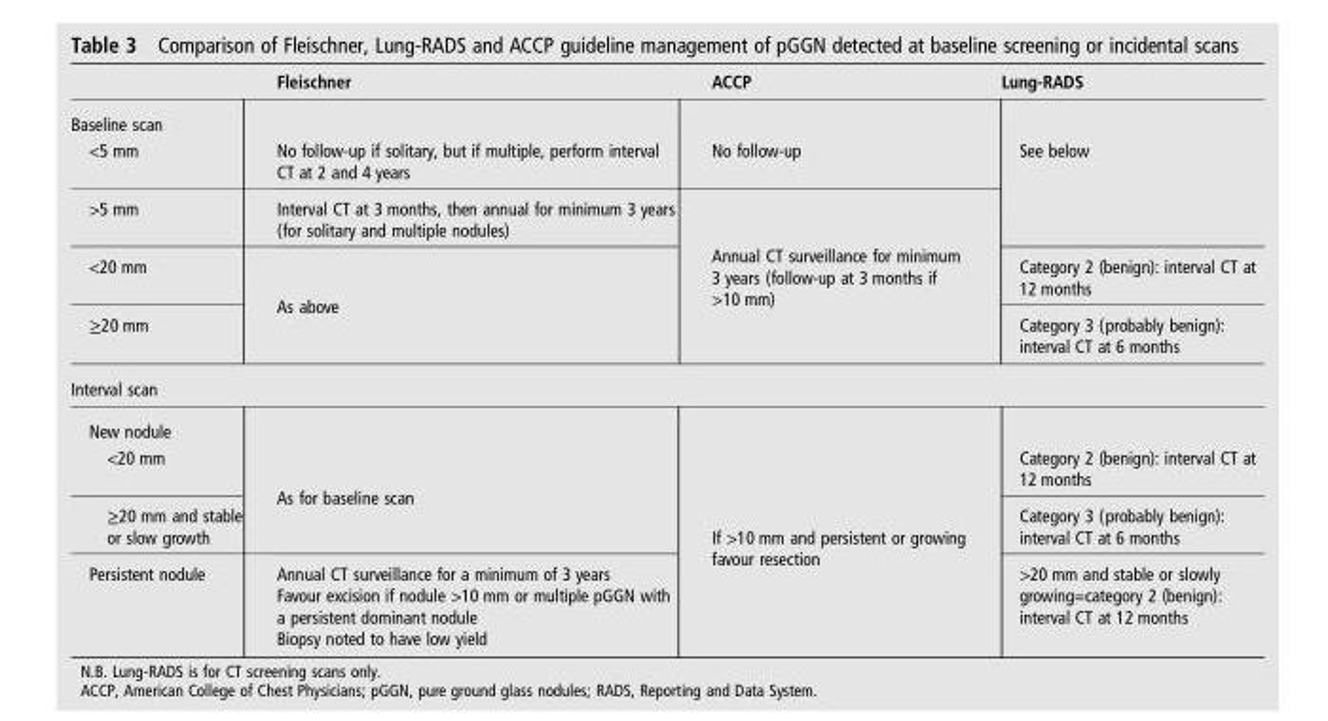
<table><thead><tr><td></td><td>Fleischner</td><td>ACCP</td><td>Lung-RADS</td></tr></thead><tbody><tr><td colspan="4">Baseline scan</td></tr><tr><td>&lt;5 mm</td><td>No follow-up if solitary, but if multiple, perform interval CT at 2 and 4 years</td><td>No follow-up</td><td rowspan="2">See below</td></tr><tr><td>&gt;5 mm</td><td>Interval CT at 3 months, then annual for minimum 3 years (for solitary and multiple nodules)</td><td rowspan="3">Annual CT surveillance for minimum 3 years (follow-up at 3 months if &gt;10 mm)</td></tr><tr><td>&lt;20 mm</td><td rowspan="2">As above</td><td>Category 2 (benign): interval CT at 12 months</td></tr><tr><td>≥20 mm</td><td>Category 3 (probably benign): interval CT at 6 months</td></tr><tr><td colspan="4">Interval scan</td></tr><tr><td colspan="4">New nodule</td></tr><tr><td>&lt;20 mm</td><td rowspan="2">As for baseline scan</td><td rowspan="3">If &gt;10 mm and persistent or growing favour resection</td><td>Category 2 (benign): interval CT at 12 months</td></tr><tr><td>≥20 mm and stable or slow growth</td><td>Category 3 (probably benign): interval CT at 6 months</td></tr><tr><td>Persistent nodule</td><td>Annual CT surveillance for a minimum of 3 years Favour excision if nodule &gt;10 mm or multiple pGGN with a persistent dominant nodule Biopsy noted to have low yield</td><td>&gt;20 mm and stable or slowly growing=category 2 (benign): interval CT at 12 months</td></tr></tbody></table>